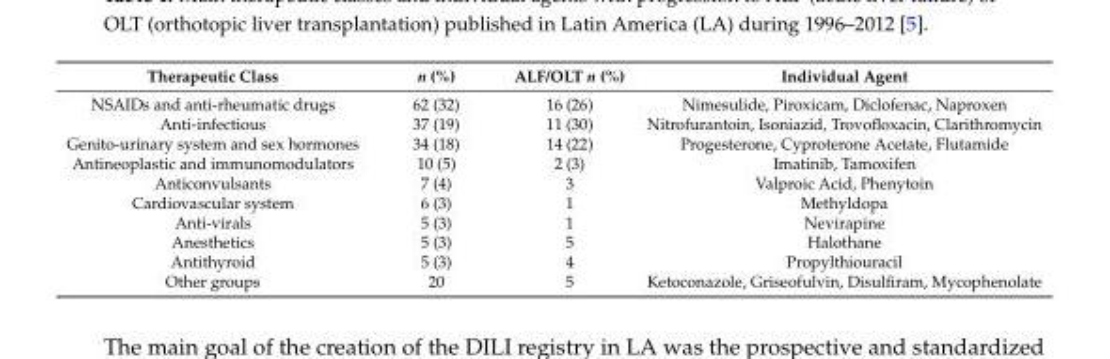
<table><thead><tr><td>Therapeutic Class</td><td>n (%)</td><td>ALF/OLT n (%)</td><td>Individual Agent</td></tr></thead><tbody><tr><td>NSAIDs and anti-rheumatic drugs</td><td>62 (32)</td><td>16 (26)</td><td>Nimesulide, Piroxicam, Diclofenac, Naproxen</td></tr><tr><td>Anti-infectious</td><td>37 (19)</td><td>11 (30)</td><td>Nitrofurantoin, Isoniazid, Trovofloxacin, Clarithromycin</td></tr><tr><td>Genito-urinary system and sex hormones</td><td>34 (18)</td><td>14 (22)</td><td>Progesterone, Cyproterone Acetate, Flutamide</td></tr><tr><td>Antineoplastic and immunomodulators</td><td>10 (5)</td><td>2 (3)</td><td>Imatinib, Tamoxifen</td></tr><tr><td>Anticonvulsants</td><td>7 (4)</td><td>3</td><td>Valproic Acid, Phenytoin</td></tr><tr><td>Cardiovascular system</td><td>6 (3)</td><td>1</td><td>Methyldopa</td></tr><tr><td>Anti-virals</td><td>5 (3)</td><td>1</td><td>Nevirapine</td></tr><tr><td>Anesthetics</td><td>5 (3)</td><td>5</td><td>Halothane</td></tr><tr><td>Antithyroid</td><td>5 (3)</td><td>4</td><td>Propylthiouracil</td></tr><tr><td>Other groups</td><td>20</td><td>5</td><td>Ketoconazole, Griseofulvin, Disulfiram, Mycophenolate</td></tr></tbody></table>